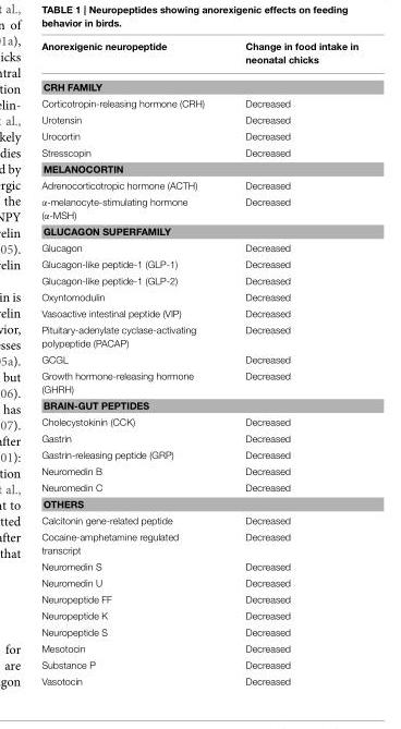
<table><thead><tr><td>Anorexigenic neuropeptide</td><td>Change in food intake in neonatal chicks</td></tr></thead><tbody><tr><td colspan="2">CRH FAMILY</td></tr><tr><td>Corticotropin-releasing hormone (CRH)</td><td>Decreased</td></tr><tr><td>Urotensin</td><td>Decreased</td></tr><tr><td>Urocortin</td><td>Decreased</td></tr><tr><td>Stresscopin</td><td>Decreased</td></tr><tr><td colspan="2">MELANOCORTIN</td></tr><tr><td>Adrenocorticotropic hormone (ACTH)</td><td>Decreased</td></tr><tr><td>α-melanocyte-stimulating hormone (α-MSH)</td><td>Decreased</td></tr><tr><td colspan="2">GLUCAGON SUPERFAMILY</td></tr><tr><td>Glucagon</td><td>Decreased</td></tr><tr><td>Glucagon-like peptide-1 (GLP-1)</td><td>Decreased</td></tr><tr><td>Glucagon-like peptide-1 (GLP-2)</td><td>Decreased</td></tr><tr><td>Oxyntomodulin</td><td>Decreased</td></tr><tr><td>Vasoactive intestinal peptide (VIP)</td><td>Decreased</td></tr><tr><td>Pituitary-adenylate cyclase-activating polypeptide (PACAP)</td><td>Decreased</td></tr><tr><td>GCGL</td><td>Decreased</td></tr><tr><td>Growth hormone-releasing hormone (GHRH)</td><td>Decreased</td></tr><tr><td colspan="2">BRAIN-GUT PEPTIDES</td></tr><tr><td>Cholecystokinin (CCK)</td><td>Decreased</td></tr><tr><td>Gastrin</td><td>Decreased</td></tr><tr><td>Gastrin-releasing peptide (GRP)</td><td>Decreased</td></tr><tr><td>Neuromedin B</td><td>Decreased</td></tr><tr><td>Neuromedin C</td><td>Decreased</td></tr><tr><td colspan="2">OTHERS</td></tr><tr><td>Calcitonin gene-related peptide</td><td>Decreased</td></tr><tr><td>Cocaine-amphetamine regulated transcript</td><td>Decreased</td></tr><tr><td>Neuromedin S</td><td>Decreased</td></tr><tr><td>Neuromedin U</td><td>Decreased</td></tr><tr><td>Neuropeptide FF</td><td>Decreased</td></tr><tr><td>Neuropeptide K</td><td>Decreased</td></tr><tr><td>Neuropeptide S</td><td>Decreased</td></tr><tr><td>Mesotocin</td><td>Decreased</td></tr><tr><td>Substance P</td><td>Decreased</td></tr><tr><td>Vasotocin</td><td>Decreased</td></tr></tbody></table>